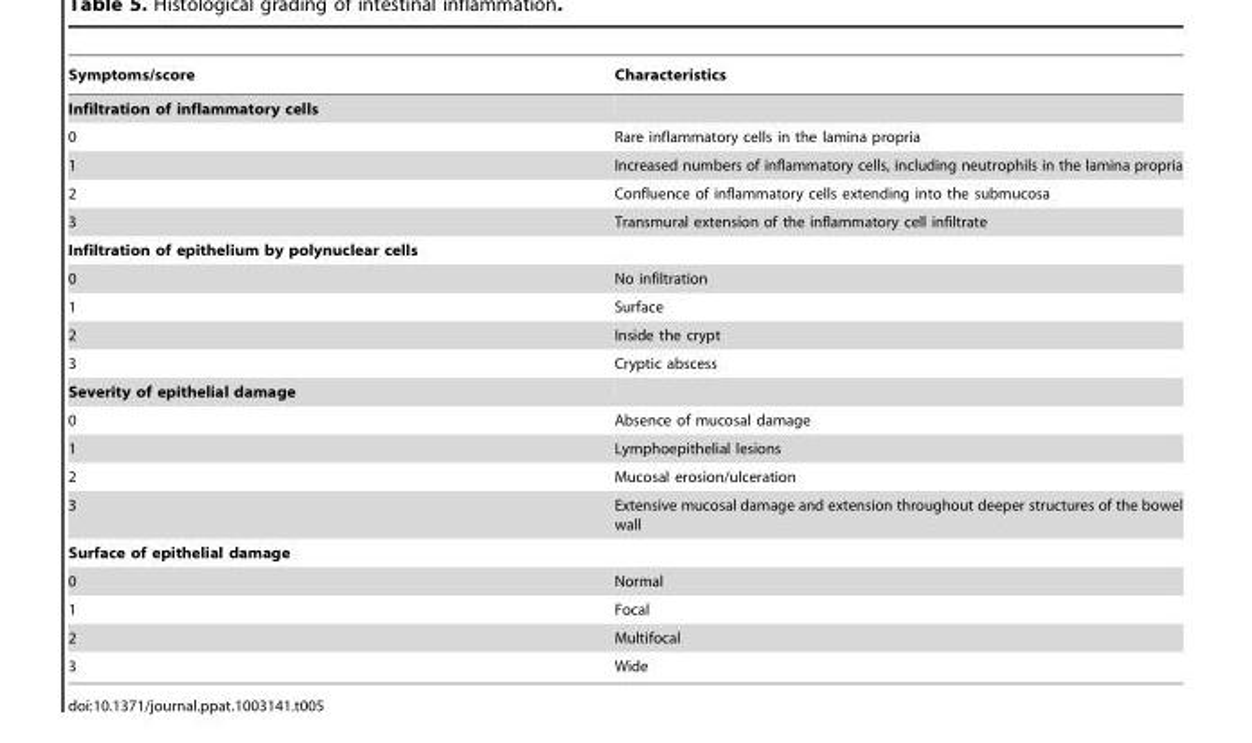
<table><thead><tr><td>Symptoms/score</td><td>Characteristics</td></tr></thead><tbody><tr><td colspan="2">Infiltration of inflammatory cells</td></tr><tr><td>0</td><td>Rare inflammatory cells in the lamina propria</td></tr><tr><td>1</td><td>Increased numbers of inflammatory cells, including neutrophils in the lamina propria</td></tr><tr><td>2</td><td>Confluence of inflammatory cells extending into the submucosa</td></tr><tr><td>3</td><td>Transmural extension of the inflammatory cell infiltrate</td></tr><tr><td colspan="2">Infiltration of epithelium by polynuclear cells</td></tr><tr><td>0</td><td>No infiltration</td></tr><tr><td>1</td><td>Surface</td></tr><tr><td>2</td><td>Inside the crypt</td></tr><tr><td>3</td><td>Cryptic abscess</td></tr><tr><td colspan="2">Severity of epithelial damage</td></tr><tr><td>0</td><td>Absence of mucosal damage</td></tr><tr><td>1</td><td>Lymphoepithelial lesions</td></tr><tr><td>2</td><td>Mucosal erosion/ulceration</td></tr><tr><td>3</td><td>Extensive mucosal damage and extension throughout deeper structures of the bowel wall</td></tr><tr><td colspan="2">Surface of epithelial damage</td></tr><tr><td>0</td><td>Normal</td></tr><tr><td>1</td><td>Focal</td></tr><tr><td>2</td><td>Multifocal</td></tr><tr><td>3</td><td>Wide</td></tr></tbody></table>